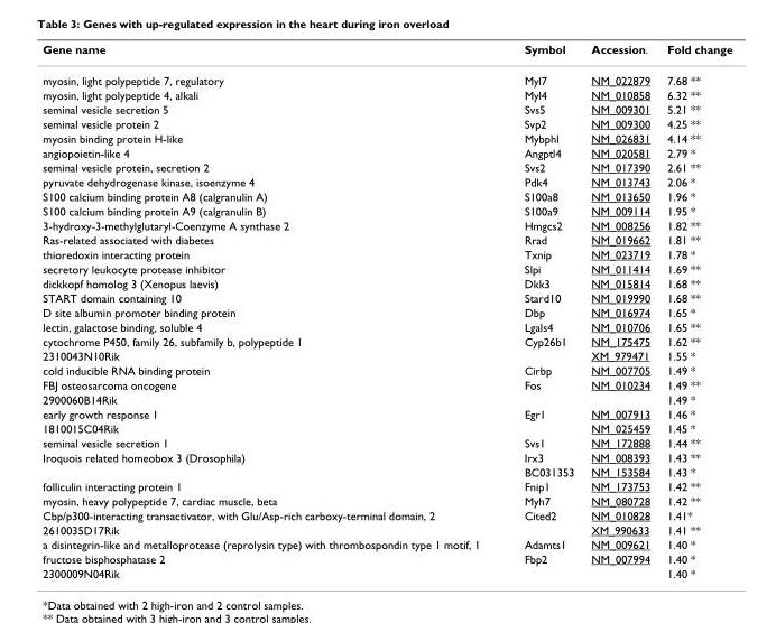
<table><thead><tr><td>Gene name</td><td>Symbol</td><td>Accession.</td><td>Fold change</td></tr></thead><tbody><tr><td>myosin, light polypeptide 7, regulatory</td><td>Myl7</td><td>NM_022879</td><td>7.68 **</td></tr><tr><td>myosin, light polypeptide 4, alkali</td><td>Myl4</td><td>NM_010858</td><td>6.32 **</td></tr><tr><td>seminal vesicle secretion 5</td><td>Svs5</td><td>NM_009301</td><td>5.21 **</td></tr><tr><td>seminal vesicle protein 2</td><td>Svp2</td><td>NM_009300</td><td>4.25 **</td></tr><tr><td>myosin binding protein H-like</td><td>Mybphl</td><td>NM_026831</td><td>4.14 **</td></tr><tr><td>angiopoietin-like 4</td><td>Angptl4</td><td>NM_020581</td><td>2.79 *</td></tr><tr><td>seminal vesicle protein, secretion 2</td><td>Svs2</td><td>NM_017390</td><td>2.61 **</td></tr><tr><td>pyruvate dehydrogenase kinase, isoenzyme 4</td><td>Pdk4</td><td>NM_013743</td><td>2.06 *</td></tr><tr><td>S100 calcium binding protein A8 (calgranulin A)</td><td>S100a8</td><td>NM_013650</td><td>1.96 *</td></tr><tr><td>S100 calcium binding protein A9 (calgranulin B)</td><td>S100a9</td><td>NM_009114</td><td>1.95 *</td></tr><tr><td>3-hydroxy-3-methylglutaryl-Coenzyme A synthase 2</td><td>Hmgcs2</td><td>NM_008256</td><td>1.82 **</td></tr><tr><td>Ras-related associated with diabetes</td><td>Rrad</td><td>NM_019662</td><td>1.81 **</td></tr><tr><td>thioredoxin interacting protein</td><td>Txnip</td><td>NM_023719</td><td>1.78 *</td></tr><tr><td>secretory leukocyte protease inhibitor</td><td>Slpi</td><td>NM_011414</td><td>1.69 **</td></tr><tr><td>dickkopf homolog 3 (Xenopus laevis)</td><td>Dkk3</td><td>NM_015814</td><td>1.68 **</td></tr><tr><td>START domain containing 10</td><td>Stard10</td><td>NM_019990</td><td>1.68 **</td></tr><tr><td>D site albumin promoter binding protein</td><td>Dbp</td><td>NM_016974</td><td>1.65 *</td></tr><tr><td>lectin, galactose binding, soluble 4</td><td>Lgals4</td><td>NM_010706</td><td>1.65 **</td></tr><tr><td>cytochrome P450, family 26, subfamily b, polypeptide 1</td><td>Cyp26b1</td><td>NM_175475</td><td>1.62 **</td></tr><tr><td>2310043N10Rik</td><td></td><td>XM_979471</td><td>1.55 *</td></tr><tr><td>cold inducible RNA binding protein</td><td>Cirbp</td><td>NM_007705</td><td>1.49 *</td></tr><tr><td>FBJ osteosarcoma oncogene</td><td>Fos</td><td>NM_010234</td><td>1.49 **</td></tr><tr><td>2900060B14Rik</td><td></td><td></td><td>1.49 *</td></tr><tr><td>early growth response 1</td><td>Egr1</td><td>NM_007913</td><td>1.46 *</td></tr><tr><td>1810015C04Rik</td><td></td><td>NM_025459</td><td>1.45 *</td></tr><tr><td>seminal vesicle secretion 1</td><td>Svs1</td><td>NM_172888</td><td>1.44 **</td></tr><tr><td rowspan="2">Iroquois related homeobox 3 (Drosophila)</td><td>Irx3</td><td>NM_008393</td><td>1.43 **</td></tr><tr><td>BC031353</td><td>NM_153584</td><td>1.43 *</td></tr><tr><td>folliculin interacting protein 1</td><td>Fnip1</td><td>NM_173753</td><td>1.42 **</td></tr><tr><td>myosin, heavy polypeptide 7, cardiac muscle, beta</td><td>Myh7</td><td>NM_080728</td><td>1.42 **</td></tr><tr><td>Cbp/p300-interacting transactivator, with Glu/Asp-rich carboxy-terminal domain, 2</td><td>Cited2</td><td>NM_010828</td><td>1.41*</td></tr><tr><td>2610035D17Rik</td><td></td><td>XM_990633</td><td>1.41 **</td></tr><tr><td>a disintegrin-like and metalloprotease (reprolysin type) with thrombospondin type 1 motif, 1</td><td>Adamts1</td><td>NM_009621</td><td>1.40 *</td></tr><tr><td>fructose bisphosphatase 2</td><td>Fbp2</td><td>NM_007994</td><td>1.40 *</td></tr><tr><td>2300009N04Rik</td><td></td><td></td><td>1.40 *</td></tr></tbody></table>